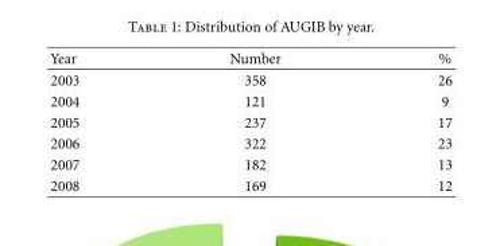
<table><thead><tr><td>Year</td><td>Number</td><td>%</td></tr></thead><tbody><tr><td>2003</td><td>358</td><td>26</td></tr><tr><td>2004</td><td>121</td><td>9</td></tr><tr><td>2005</td><td>237</td><td>17</td></tr><tr><td>2006</td><td>322</td><td>23</td></tr><tr><td>2007</td><td>182</td><td>13</td></tr><tr><td>2008</td><td>169</td><td>12</td></tr></tbody></table>